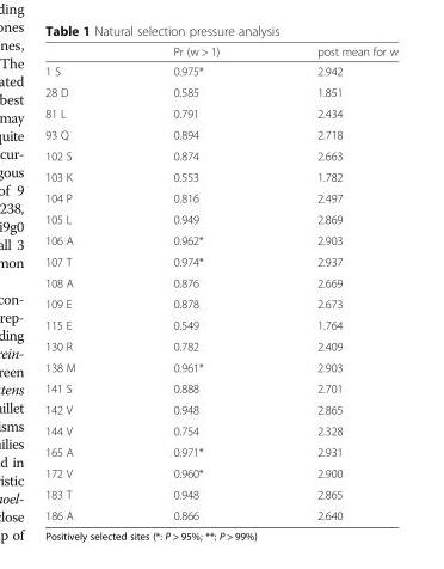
<table><thead><tr><td></td><td>Pr (w &gt; 1)</td><td>post mean for w</td></tr></thead><tbody><tr><td>1 S</td><td>0.975*</td><td>2.942</td></tr><tr><td>28 D</td><td>0.585</td><td>1.851</td></tr><tr><td>81 L</td><td>0.791</td><td>2.434</td></tr><tr><td>93 Q</td><td>0.894</td><td>2.718</td></tr><tr><td>102 S</td><td>0.874</td><td>2.663</td></tr><tr><td>103 K</td><td>0.553</td><td>1.782</td></tr><tr><td>104 P</td><td>0.816</td><td>2.497</td></tr><tr><td>105 L</td><td>0.949</td><td>2.869</td></tr><tr><td>106 A</td><td>0.962*</td><td>2.903</td></tr><tr><td>107 T</td><td>0.974*</td><td>2.937</td></tr><tr><td>108 A</td><td>0.876</td><td>2.669</td></tr><tr><td>109 E</td><td>0.878</td><td>2.673</td></tr><tr><td>115 E</td><td>0.549</td><td>1.764</td></tr><tr><td>130 R</td><td>0.782</td><td>2.409</td></tr><tr><td>138 M</td><td>0.961*</td><td>2.903</td></tr><tr><td>141 S</td><td>0.888</td><td>2.701</td></tr><tr><td>142 V</td><td>0.948</td><td>2.865</td></tr><tr><td>144 V</td><td>0.754</td><td>2.328</td></tr><tr><td>165 A</td><td>0.971*</td><td>2.931</td></tr><tr><td>172 V</td><td>0.960*</td><td>2.900</td></tr><tr><td>183 T</td><td>0.948</td><td>2.865</td></tr><tr><td>186 A</td><td>0.866</td><td>2.640</td></tr></tbody></table>